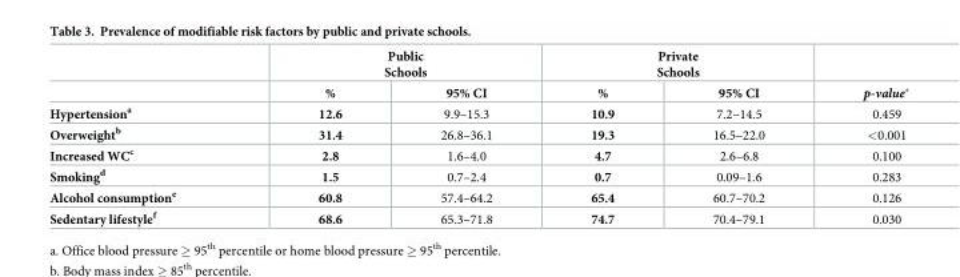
<table><thead><tr><td rowspan="2"></td><td colspan="2">Public Schools</td><td colspan="2">Private Schools</td><td rowspan="2">p-value*</td></tr><tr><td>%</td><td>95% CI</td><td>%</td><td>95% CI</td></tr></thead><tbody><tr><td>Hypertension<sup>a</sup></td><td>12.6</td><td>9.9–15.3</td><td>10.9</td><td>7.2–14.5</td><td>0.459</td></tr><tr><td>Overweight<sup>b</sup></td><td>31.4</td><td>26.8–36.1</td><td>19.3</td><td>16.5–22.0</td><td>&lt;0.001</td></tr><tr><td>Increased WC<sup>c</sup></td><td>2.8</td><td>1.6–4.0</td><td>4.7</td><td>2.6–6.8</td><td>0.100</td></tr><tr><td>Smoking<sup>d</sup></td><td>1.5</td><td>0.7–2.4</td><td>0.7</td><td>0.09–1.6</td><td>0.283</td></tr><tr><td>Alcohol consumption<sup>e</sup></td><td>60.8</td><td>57.4–64.2</td><td>65.4</td><td>60.7–70.2</td><td>0.126</td></tr><tr><td>Sedentary lifestyle<sup>f</sup></td><td>68.6</td><td>65.3–71.8</td><td>74.7</td><td>70.4–79.1</td><td>0.030</td></tr></tbody></table>